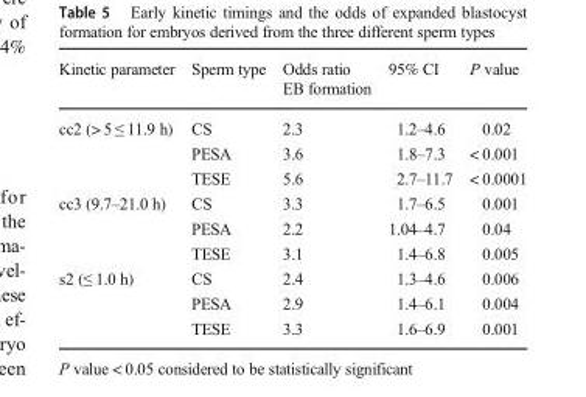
<table><thead><tr><td>Kinetic parameter</td><td>Sperm type</td><td>Odds ratio EB formation</td><td>95% CI</td><td>P value</td></tr></thead><tbody><tr><td rowspan="3">cc2 (&gt; 5 ≤ 11.9 h)</td><td>CS</td><td>2.3</td><td>1.2–4.6</td><td>0.02</td></tr><tr><td>PESA</td><td>3.6</td><td>1.8–7.3</td><td>&lt; 0.001</td></tr><tr><td>TESE</td><td>5.6</td><td>2.7–11.7</td><td>&lt; 0.0001</td></tr><tr><td rowspan="3">cc3 (9.7–21.0 h)</td><td>CS</td><td>3.3</td><td>1.7–6.5</td><td>0.001</td></tr><tr><td>PESA</td><td>2.2</td><td>1.04–4.7</td><td>0.04</td></tr><tr><td>TESE</td><td>3.1</td><td>1.4–6.8</td><td>0.005</td></tr><tr><td rowspan="3">s2 (≤ 1.0 h)</td><td>CS</td><td>2.4</td><td>1.3–4.6</td><td>0.006</td></tr><tr><td>PESA</td><td>2.9</td><td>1.4–6.1</td><td>0.004</td></tr><tr><td>TESE</td><td>3.3</td><td>1.6–6.9</td><td>0.001</td></tr></tbody></table>